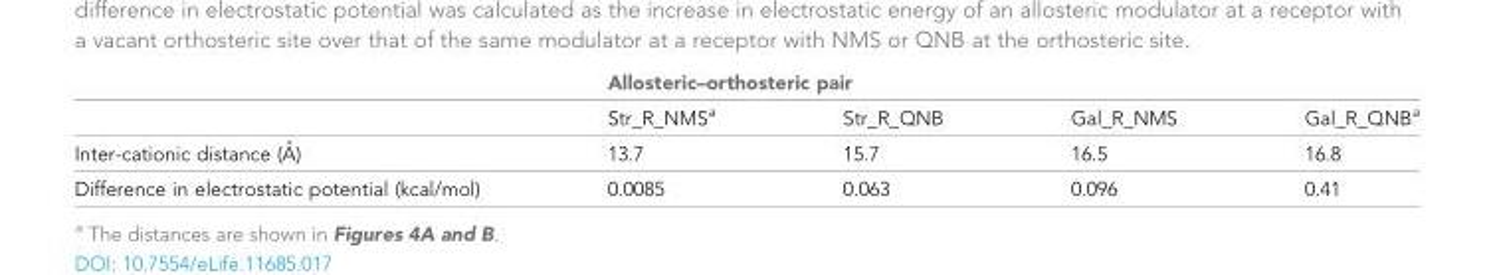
<table><thead><tr><td rowspan="2"></td><td colspan="4">Allosteric–orthosteric pair</td></tr><tr><td>Str_R_NMS<sup>a</sup></td><td>Str_R_QNB</td><td>Gal_R_NMS</td><td>Gal_R_QNB<sup>a</sup></td></tr></thead><tbody><tr><td>Inter-cationic distance (A˚ )</td><td>13.7</td><td>15.7</td><td>16.5</td><td>16.8</td></tr><tr><td>Difference in electrostatic potential (kcal/mol)</td><td>0.0085</td><td>0.063</td><td>0.096</td><td>0.41</td></tr></tbody></table>